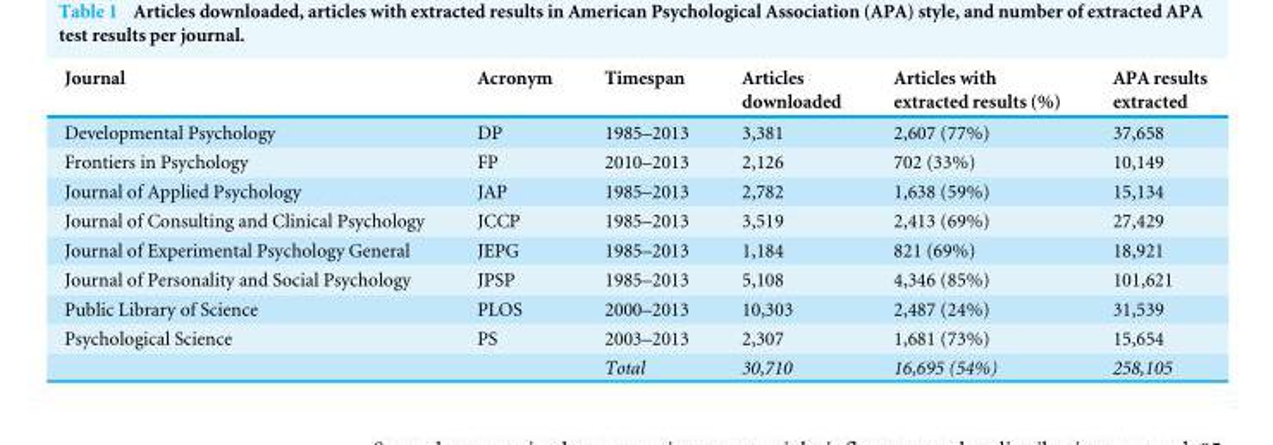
<table><thead><tr><td>Journal</td><td>Acronym</td><td>Timespan</td><td>Articles downloaded</td><td>Articles with extracted results (%)</td><td>APA results extracted</td></tr></thead><tbody><tr><td>Developmental Psychology</td><td>DP</td><td>1985–2013</td><td>3,381</td><td>2,607 (77%)</td><td>37,658</td></tr><tr><td>Frontiers in Psychology</td><td>FP</td><td>2010–2013</td><td>2,126</td><td>702 (33%)</td><td>10,149</td></tr><tr><td>Journal of Applied Psychology</td><td>JAP</td><td>1985–2013</td><td>2,782</td><td>1,638 (59%)</td><td>15,134</td></tr><tr><td>Journal of Consulting and Clinical Psychology</td><td>JCCP</td><td>1985–2013</td><td>3,519</td><td>2,413 (69%)</td><td>27,429</td></tr><tr><td>Journal of Experimental Psychology General</td><td>JEPG</td><td>1985–2013</td><td>1,184</td><td>821 (69%)</td><td>18,921</td></tr><tr><td>Journal of Personality and Social Psychology</td><td>JPSP</td><td>1985–2013</td><td>5,108</td><td>4,346 (85%)</td><td>101,621</td></tr><tr><td>Public Library of Science</td><td>PLOS</td><td>2000–2013</td><td>10,303</td><td>2,487 (24%)</td><td>31,539</td></tr><tr><td rowspan="2">Psychological Science</td><td>PS</td><td>2003–2013</td><td>2,307</td><td>1,681 (73%)</td><td>15,654</td></tr><tr><td></td><td>Total</td><td>30,710</td><td>16,695 (54%)</td><td>258,105</td></tr></tbody></table>